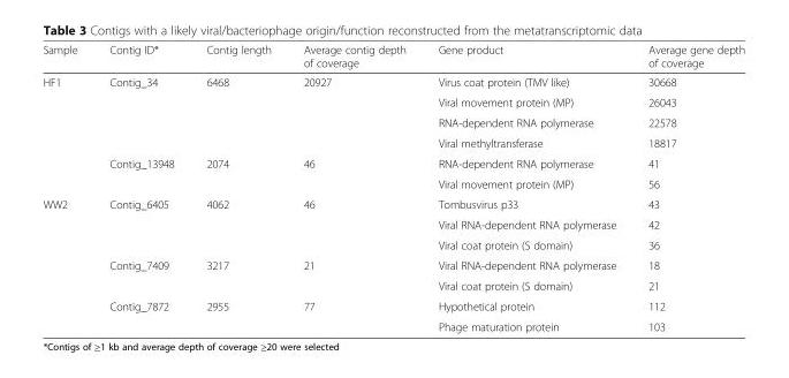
<table><thead><tr><td>Sample</td><td>Contig ID*</td><td>Contig length</td><td>Average contig depth of coverage</td><td>Gene product</td><td>Average gene depth of coverage</td></tr></thead><tbody><tr><td rowspan="6">HF1</td><td rowspan="4">Contig_34</td><td rowspan="4">6468</td><td rowspan="4">20927</td><td>Virus coat protein (TMV like)</td><td>30668</td></tr><tr><td>Viral movement protein (MP)</td><td>26043</td></tr><tr><td>RNA-dependent RNA polymerase</td><td>22578</td></tr><tr><td>Viral methyltransferase</td><td>18817</td></tr><tr><td rowspan="2">Contig_13948</td><td rowspan="2">2074</td><td rowspan="2">46</td><td>RNA-dependent RNA polymerase</td><td>41</td></tr><tr><td>Viral movement protein (MP)</td><td>56</td></tr><tr><td rowspan="7">WW2</td><td rowspan="3">Contig_6405</td><td rowspan="3">4062</td><td rowspan="3">46</td><td>Tombusvirus p33</td><td>43</td></tr><tr><td>Viral RNA-dependent RNA polymerase</td><td>42</td></tr><tr><td>Viral coat protein (S domain)</td><td>36</td></tr><tr><td rowspan="2">Contig_7409</td><td rowspan="2">3217</td><td rowspan="2">21</td><td>Viral RNA-dependent RNA polymerase</td><td>18</td></tr><tr><td>Viral coat protein (S domain)</td><td>21</td></tr><tr><td rowspan="2">Contig_7872</td><td rowspan="2">2955</td><td rowspan="2">77</td><td>Hypothetical protein</td><td>112</td></tr><tr><td>Phage maturation protein</td><td>103</td></tr></tbody></table>